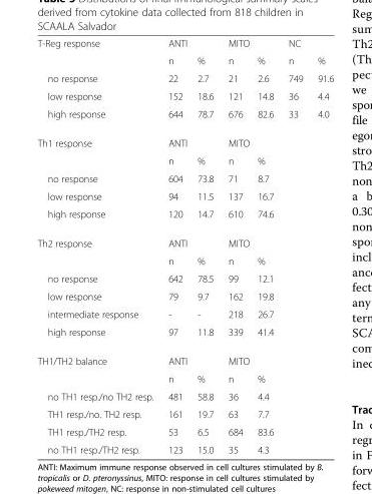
<table><tbody><tr><td rowspan="2">T-Reg response</td><td colspan="2">ANTI</td><td colspan="2">MITO</td><td colspan="2">NC</td></tr><tr><td>n</td><td>%</td><td>n</td><td>%</td><td>n</td><td>%</td></tr><tr><td>no response</td><td>22</td><td>2.7</td><td>21</td><td>2.6</td><td>749</td><td>91.6</td></tr><tr><td>low response</td><td>152</td><td>18.6</td><td>121</td><td>14.8</td><td>36</td><td>4.4</td></tr><tr><td>high response</td><td>644</td><td>78.7</td><td>676</td><td>82.6</td><td>33</td><td>4.0</td></tr><tr><td rowspan="2">Th1 response</td><td colspan="2">ANTI</td><td colspan="2">MITO</td><td></td><td></td></tr><tr><td>n</td><td>%</td><td>n</td><td>%</td><td></td><td></td></tr><tr><td>no response</td><td>604</td><td>73.8</td><td>71</td><td>8.7</td><td></td><td></td></tr><tr><td>low response</td><td>94</td><td>11.5</td><td>137</td><td>16.7</td><td></td><td></td></tr><tr><td>high response</td><td>120</td><td>14.7</td><td>610</td><td>74.6</td><td></td><td></td></tr><tr><td rowspan="2">Th2 response</td><td colspan="2">ANTI</td><td colspan="2">MITO</td><td></td><td></td></tr><tr><td>n</td><td>%</td><td>n</td><td>%</td><td></td><td></td></tr><tr><td>no response</td><td>642</td><td>78.5</td><td>99</td><td>12.1</td><td></td><td></td></tr><tr><td>low response</td><td>79</td><td>9.7</td><td>162</td><td>19.8</td><td></td><td></td></tr><tr><td>intermediate response</td><td>-</td><td>-</td><td>218</td><td>26.7</td><td></td><td></td></tr><tr><td>high response</td><td>97</td><td>11.8</td><td>339</td><td>41.4</td><td></td><td></td></tr><tr><td rowspan="2">TH1/TH2 balance</td><td colspan="2">ANTI</td><td colspan="2">MITO</td><td></td><td></td></tr><tr><td>n</td><td>%</td><td>n</td><td>%</td><td></td><td></td></tr><tr><td>no TH1 resp./no TH2 resp.</td><td>481</td><td>58.8</td><td>36</td><td>4.4</td><td></td><td></td></tr><tr><td>TH1 resp./no. TH2 resp.</td><td>161</td><td>19.7</td><td>63</td><td>7.7</td><td></td><td></td></tr><tr><td>TH1 resp./TH2 resp.</td><td>53</td><td>6.5</td><td>684</td><td>83.6</td><td></td><td></td></tr><tr><td>no TH1 resp./TH2 resp.</td><td>123</td><td>15.0</td><td>35</td><td>4.3</td><td></td><td></td></tr></tbody></table>